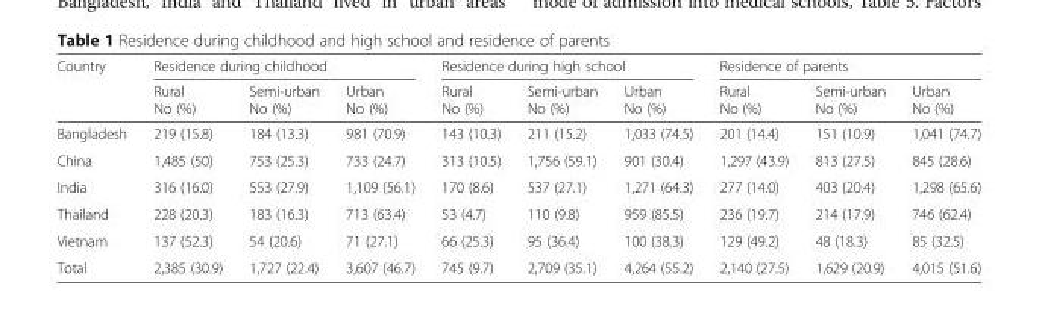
<table><thead><tr><td rowspan="2">Country</td><td colspan="3">Residence during childhood</td><td colspan="3">Residence during high school</td><td colspan="3">Residence of parents</td></tr><tr><td>Rural No (%)</td><td>Semi-urban No (%)</td><td>Urban No (%)</td><td>Rural No (%)</td><td>Semi-urban No (%)</td><td>Urban No (%)</td><td>Rural No (%)</td><td>Semi-urban No (%)</td><td>Urban No (%)</td></tr></thead><tbody><tr><td>Bangladesh</td><td>219 (15.8)</td><td>184 (13.3)</td><td>981 (70.9)</td><td>143 (10.3)</td><td>211 (15.2)</td><td>1,033 (74.5)</td><td>201 (14.4)</td><td>151 (10.9)</td><td>1,041 (74.7)</td></tr><tr><td>China</td><td>1,485 (50)</td><td>753 (25.3)</td><td>733 (24.7)</td><td>313 (10.5)</td><td>1,756 (59.1)</td><td>901 (30.4)</td><td>1,297 (43.9)</td><td>813 (27.5)</td><td>845 (28.6)</td></tr><tr><td>India</td><td>316 (16.0)</td><td>553 (27.9)</td><td>1,109 (56.1)</td><td>170 (8.6)</td><td>537 (27.1)</td><td>1,271 (64.3)</td><td>277 (14.0)</td><td>403 (20.4)</td><td>1,298 (65.6)</td></tr><tr><td>Thailand</td><td>228 (20.3)</td><td>183 (16.3)</td><td>713 (63.4)</td><td>53 (4.7)</td><td>110 (9.8)</td><td>959 (85.5)</td><td>236 (19.7)</td><td>214 (17.9)</td><td>746 (62.4)</td></tr><tr><td>Vietnam</td><td>137 (52.3)</td><td>54 (20.6)</td><td>71 (27.1)</td><td>66 (25.3)</td><td>95 (36.4)</td><td>100 (38.3)</td><td>129 (49.2)</td><td>48 (18.3)</td><td>85 (32.5)</td></tr><tr><td>Total</td><td>2,385 (30.9)</td><td>1,727 (22.4)</td><td>3,607 (46.7)</td><td>745 (9.7)</td><td>2,709 (35.1)</td><td>4,264 (55.2)</td><td>2,140 (27.5)</td><td>1,629 (20.9)</td><td>4,015 (51.6)</td></tr></tbody></table>